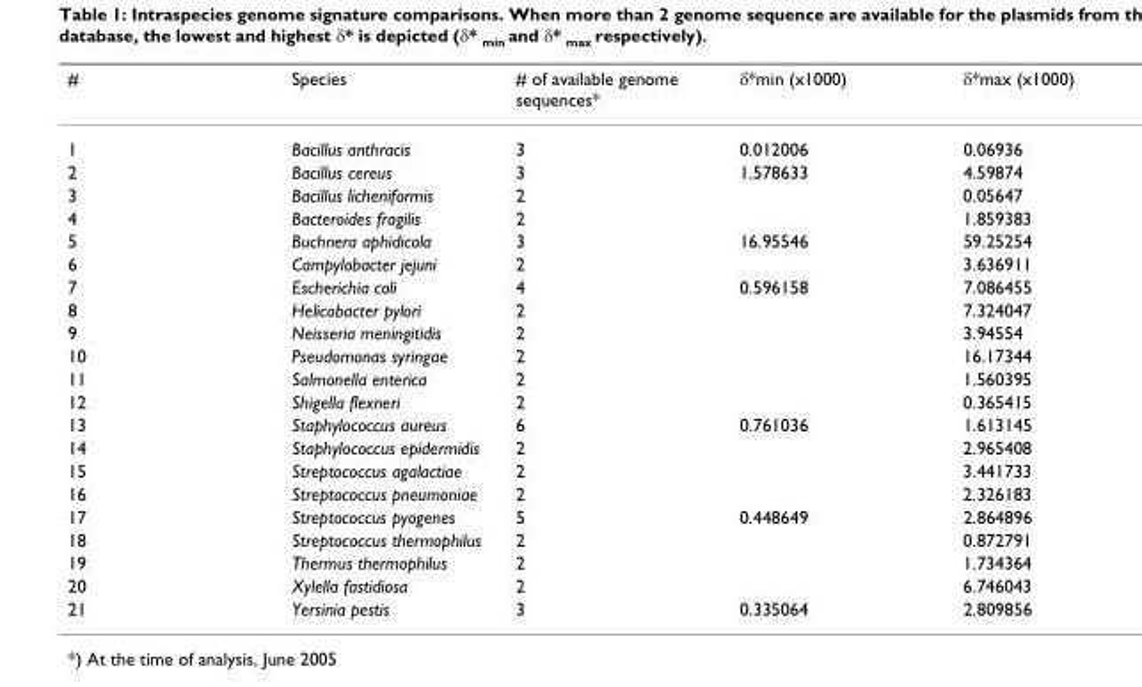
<table><thead><tr><td>#</td><td>Species</td><td># of available genome sequences*</td><td>δ*min (x1000)</td><td>δ*max (x1000)</td></tr></thead><tbody><tr><td>1</td><td>Bacillus anthracis</td><td>3</td><td>0.012006</td><td>0.06936</td></tr><tr><td>2</td><td>Bacillus cereus</td><td>3</td><td>1.578633</td><td>4.59874</td></tr><tr><td>3</td><td>Bacillus licheniformis</td><td>2</td><td></td><td>0.05647</td></tr><tr><td>4</td><td>Bacteroides fragilis</td><td>2</td><td></td><td>1.859383</td></tr><tr><td>5</td><td>Buchnera aphidicola</td><td>3</td><td>16.95546</td><td>59.25254</td></tr><tr><td>6</td><td>Campylobacter jejuni</td><td>2</td><td></td><td>3.636911</td></tr><tr><td>7</td><td>Escherichia coli</td><td>4</td><td>0.596158</td><td>7.086455</td></tr><tr><td>8</td><td>Helicobacter pylori</td><td>2</td><td></td><td>7.324047</td></tr><tr><td>9</td><td>Neisseria meningitidis</td><td>2</td><td></td><td>3.94554</td></tr><tr><td>10</td><td>Pseudomonas syringae</td><td>2</td><td></td><td>16.17344</td></tr><tr><td>11</td><td>Salmonella enterica</td><td>2</td><td></td><td>1.560395</td></tr><tr><td>12</td><td>Shigella flexneri</td><td>2</td><td></td><td>0.365415</td></tr><tr><td>13</td><td>Staphylococcus aureus</td><td>6</td><td>0.761036</td><td>1.613145</td></tr><tr><td>14</td><td>Staphylococcus epidermidis</td><td>2</td><td></td><td>2.965408</td></tr><tr><td>15</td><td>Streptococcus agalactiae</td><td>2</td><td></td><td>3.441733</td></tr><tr><td>16</td><td>Streptococcus pneumoniae</td><td>2</td><td></td><td>2.326183</td></tr><tr><td>17</td><td>Streptococcus pyogenes</td><td>5</td><td>0.448649</td><td>2.864896</td></tr><tr><td>18</td><td>Streptococcus thermophilus</td><td>2</td><td></td><td>0.872791</td></tr><tr><td>19</td><td>Thermus thermophilus</td><td>2</td><td></td><td>1.734364</td></tr><tr><td>20</td><td>Xylella fastidiosa</td><td>2</td><td></td><td>6.746043</td></tr><tr><td>21</td><td>Yersinia pestis</td><td>3</td><td>0.335064</td><td>2.809856</td></tr></tbody></table>